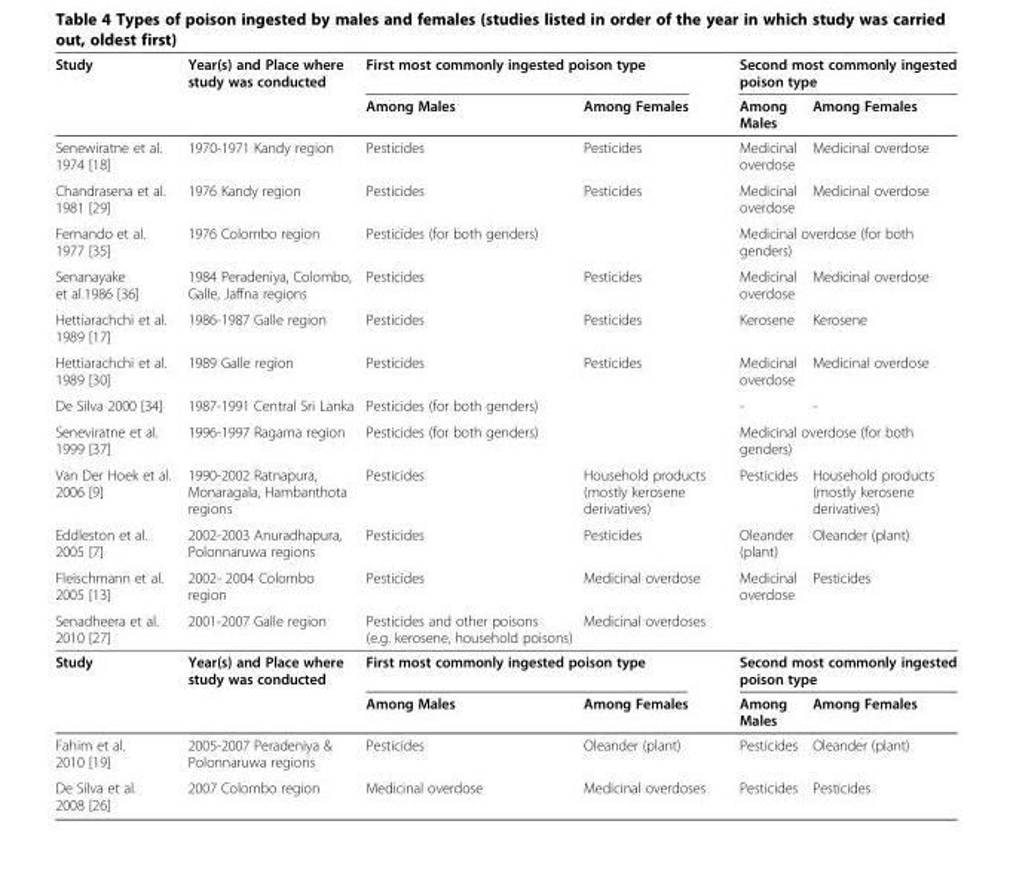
<table><thead><tr><td rowspan="2">Study</td><td rowspan="2">Year(s) and Place where study was conducted</td><td colspan="2">First most commonly ingested poison type</td><td colspan="2">Second most commonly ingested poison type</td></tr><tr><td>Among Males</td><td>Among Females</td><td>Among Males</td><td>Among Females</td></tr></thead><tbody><tr><td>Senewiratne et al. 1974 [18]</td><td>1970-1971 Kandy region</td><td>Pesticides</td><td>Pesticides</td><td>Medicinal overdose</td><td>Medicinal overdose</td></tr><tr><td>Chandrasena et al. 1981 [29]</td><td>1976 Kandy region</td><td>Pesticides</td><td>Pesticides</td><td>Medicinal overdose</td><td>Medicinal overdose</td></tr><tr><td>Fernando et al. 1977 [35]</td><td>1976 Colombo region</td><td colspan="2">Pesticides (for both genders)</td><td colspan="2">Medicinal overdose (for both genders)</td></tr><tr><td>Senanayake et al.1986 [36]</td><td>1984 Peradeniya, Colombo, Galle, Jaffna regions</td><td>Pesticides</td><td>Pesticides</td><td>Medicinal overdose</td><td>Medicinal overdose</td></tr><tr><td>Hettiarachchi et al. 1989 [17]</td><td>1986-1987 Galle region</td><td>Pesticides</td><td>Pesticides</td><td>Kerosene</td><td>Kerosene</td></tr><tr><td>Hettiarachchi et al. 1989 [30]</td><td>1989 Galle region</td><td>Pesticides</td><td>Pesticides</td><td>Medicinal overdose</td><td>Medicinal overdose</td></tr><tr><td>De Silva 2000 [34]</td><td>1987-1991 Central Sri Lanka</td><td colspan="2">Pesticides (for both genders)</td><td>-</td><td>-</td></tr><tr><td>Seneviratne et al. 1999 [37]</td><td>1996-1997 Ragama region</td><td colspan="2">Pesticides (for both genders)</td><td colspan="2">Medicinal overdose (for both genders)</td></tr><tr><td>Van Der Hoek et al. 2006 [9]</td><td>1990-2002 Ratnapura, Monaragala, Hambanthota regions</td><td>Pesticides</td><td>Household products (mostly kerosene derivatives)</td><td>Pesticides</td><td>Household products (mostly kerosene derivatives)</td></tr><tr><td>Eddleston et al. 2005 [7]</td><td>2002-2003 Anuradhapura, Polonnaruwa regions</td><td>Pesticides</td><td>Pesticides</td><td>Oleander (plant)</td><td>Oleander (plant)</td></tr><tr><td>Fleischmann et al. 2005 [13]</td><td>2002- 2004 Colombo region</td><td>Pesticides</td><td>Medicinal overdose</td><td>Medicinal overdose</td><td>Pesticides</td></tr><tr><td>Senadheera et al. 2010 [27]</td><td>2001-2007 Galle region</td><td>Pesticides and other poisons (e.g. kerosene, household poisons)</td><td>Medicinal overdoses</td><td></td><td></td></tr><tr><td rowspan="2">Study</td><td rowspan="2">Year(s) and Place where study was conducted</td><td colspan="2">First most commonly ingested poison type</td><td colspan="2">Second most commonly ingested poison type</td></tr><tr><td>Among Males</td><td>Among Females</td><td>Among Males</td><td>Among Females</td></tr><tr><td>Fahim et al. 2010 [19]</td><td>2005-2007 Peradeniya &amp; Polonnaruwa regions</td><td>Pesticides</td><td>Oleander (plant)</td><td>Pesticides</td><td>Oleander (plant)</td></tr><tr><td>De Silva et al. 2008 [26]</td><td>2007 Colombo region</td><td>Medicinal overdose</td><td>Medicinal overdoses</td><td>Pesticides</td><td>Pesticides</td></tr></tbody></table>